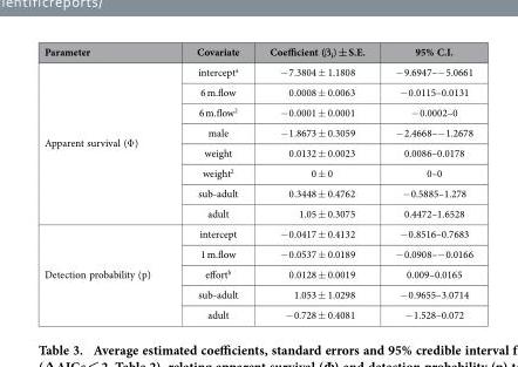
<table><thead><tr><td>Parameter</td><td>Covariate</td><td>Coefficient (β<sub>i</sub>) ± S.E.</td><td>95% C.I.</td></tr></thead><tbody><tr><td rowspan="8">Apparent survival (Φ )</td><td>intercept<sup>a</sup></td><td>− 7.3804 ± 1.1808</td><td>− 9.6947–− 5.0661</td></tr><tr><td>6 m.flow</td><td>0.0008 ± 0.0063</td><td>− 0.0115–0.0131</td></tr><tr><td>6 m.flow<sup>2</sup></td><td>− 0.0001 ± 0.0001</td><td>− 0.0002–0</td></tr><tr><td>male</td><td>− 1.8673 ± 0.3059</td><td>− 2.4668–− 1.2678</td></tr><tr><td>weight</td><td>0.0132 ± 0.0023</td><td>0.0086–0.0178</td></tr><tr><td>weight<sup>2</sup></td><td>0 ± 0</td><td>0–0</td></tr><tr><td>sub-adult</td><td>0.3448 ± 0.4762</td><td>− 0.5885–1.278</td></tr><tr><td>adult</td><td>1.05 ± 0.3075</td><td>0.4472–1.6528</td></tr><tr><td rowspan="5">Detection probability (p)</td><td>intercept</td><td>− 0.0417 ± 0.4132</td><td>− 0.8516–0.7683</td></tr><tr><td>1 m.flow</td><td>− 0.0537 ± 0.0189</td><td>− 0.0908–− 0.0166</td></tr><tr><td>effort<sup>b</sup></td><td>0.0128 ± 0.0019</td><td>0.009–0.0165</td></tr><tr><td>sub-adult</td><td>1.053 ± 1.0298</td><td>− 0.9655–3.0714</td></tr><tr><td>adult</td><td>− 0.728 ± 0.4081</td><td>− 1.528–0.072</td></tr></tbody></table>